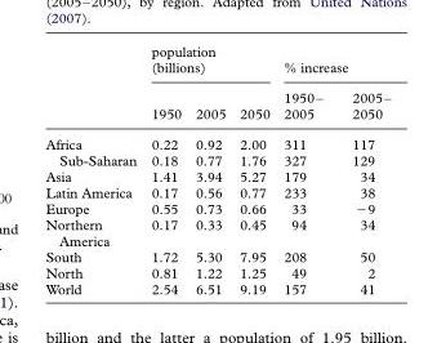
<table><thead><tr><td rowspan="2"></td><td colspan="3">population (billions)</td><td colspan="2">% increase</td></tr><tr><td>1950</td><td>2005</td><td>2050</td><td>1950– 2005</td><td>2005– 2050</td></tr></thead><tbody><tr><td>Africa</td><td>0.22</td><td>0.92</td><td>2.00</td><td>311</td><td>117</td></tr><tr><td>Sub-Saharan</td><td>0.18</td><td>0.77</td><td>1.76</td><td>327</td><td>129</td></tr><tr><td>Asia</td><td>1.41</td><td>3.94</td><td>5.27</td><td>179</td><td>34</td></tr><tr><td>Latin America</td><td>0.17</td><td>0.56</td><td>0.77</td><td>233</td><td>38</td></tr><tr><td>Europe</td><td>0.55</td><td>0.73</td><td>0.66</td><td>33</td><td>−9</td></tr><tr><td>Northern America</td><td>0.17</td><td>0.33</td><td>0.45</td><td>94</td><td>34</td></tr><tr><td>South</td><td>1.72</td><td>5.30</td><td>7.95</td><td>208</td><td>50</td></tr><tr><td>North</td><td>0.81</td><td>1.22</td><td>1.25</td><td>49</td><td>2</td></tr><tr><td>World</td><td>2.54</td><td>6.51</td><td>9.19</td><td>157</td><td>41</td></tr></tbody></table>